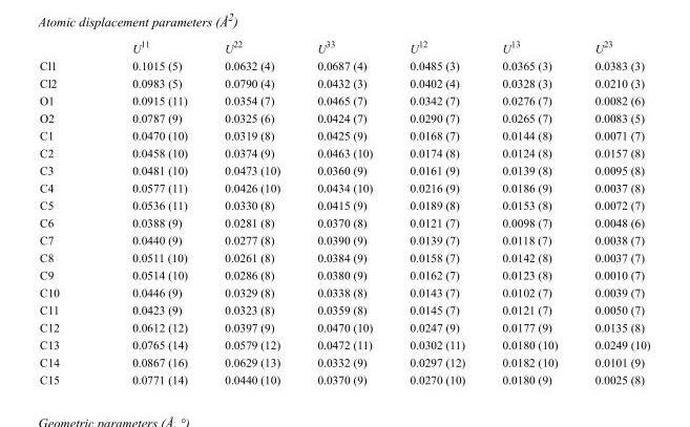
<table><thead><tr><td></td><td>U<sup>11</sup></td><td>U<sup>22</sup></td><td>U<sup>33</sup></td><td>U<sup>12</sup></td><td>U<sup>13</sup></td><td>U<sup>23</sup></td></tr></thead><tbody><tr><td>Cl1</td><td>0.1015 (5)</td><td>0.0632 (4)</td><td>0.0687 (4)</td><td>0.0485 (3)</td><td>0.0365 (3)</td><td>0.0383 (3)</td></tr><tr><td>Cl2</td><td>0.0983 (5)</td><td>0.0790 (4)</td><td>0.0432 (3)</td><td>0.0402 (4)</td><td>0.0328 (3)</td><td>0.0210 (3)</td></tr><tr><td>O1</td><td>0.0915 (11)</td><td>0.0354 (7)</td><td>0.0465 (7)</td><td>0.0342 (7)</td><td>0.0276 (7)</td><td>0.0082 (6)</td></tr><tr><td>O2</td><td>0.0787 (9)</td><td>0.0325 (6)</td><td>0.0424 (7)</td><td>0.0290 (7)</td><td>0.0265 (7)</td><td>0.0083 (5)</td></tr><tr><td>C1</td><td>0.0470 (10)</td><td>0.0319 (8)</td><td>0.0425 (9)</td><td>0.0168 (7)</td><td>0.0144 (8)</td><td>0.0071 (7)</td></tr><tr><td>C2</td><td>0.0458 (10)</td><td>0.0374 (9)</td><td>0.0463 (10)</td><td>0.0174 (8)</td><td>0.0124 (8)</td><td>0.0157 (8)</td></tr><tr><td>C3</td><td>0.0481 (10)</td><td>0.0473 (10)</td><td>0.0360 (9)</td><td>0.0161 (9)</td><td>0.0139 (8)</td><td>0.0095 (8)</td></tr><tr><td>C4</td><td>0.0577 (11)</td><td>0.0426 (10)</td><td>0.0434 (10)</td><td>0.0216 (9)</td><td>0.0186 (9)</td><td>0.0037 (8)</td></tr><tr><td>C5</td><td>0.0536 (11)</td><td>0.0330 (8)</td><td>0.0415 (9)</td><td>0.0189 (8)</td><td>0.0153 (8)</td><td>0.0072 (7)</td></tr><tr><td>C6</td><td>0.0388 (9)</td><td>0.0281 (8)</td><td>0.0370 (8)</td><td>0.0121 (7)</td><td>0.0098 (7)</td><td>0.0048 (6)</td></tr><tr><td>C7</td><td>0.0440 (9)</td><td>0.0277 (8)</td><td>0.0390 (9)</td><td>0.0139 (7)</td><td>0.0118 (7)</td><td>0.0038 (7)</td></tr><tr><td>C8</td><td>0.0511 (10)</td><td>0.0261 (8)</td><td>0.0384 (9)</td><td>0.0158 (7)</td><td>0.0142 (8)</td><td>0.0037 (7)</td></tr><tr><td>C9</td><td>0.0514 (10)</td><td>0.0286 (8)</td><td>0.0380 (9)</td><td>0.0162 (7)</td><td>0.0123 (8)</td><td>0.0010 (7)</td></tr><tr><td>C10</td><td>0.0446 (9)</td><td>0.0329 (8)</td><td>0.0338 (8)</td><td>0.0143 (7)</td><td>0.0102 (7)</td><td>0.0039 (7)</td></tr><tr><td>C11</td><td>0.0423 (9)</td><td>0.0323 (8)</td><td>0.0359 (8)</td><td>0.0145 (7)</td><td>0.0121 (7)</td><td>0.0050 (7)</td></tr><tr><td>C12</td><td>0.0612 (12)</td><td>0.0397 (9)</td><td>0.0470 (10)</td><td>0.0247 (9)</td><td>0.0177 (9)</td><td>0.0135 (8)</td></tr><tr><td>C13</td><td>0.0765 (14)</td><td>0.0579 (12)</td><td>0.0472 (11)</td><td>0.0302 (11)</td><td>0.0180 (10)</td><td>0.0249 (10)</td></tr><tr><td>C14</td><td>0.0867 (16)</td><td>0.0629 (13)</td><td>0.0332 (9)</td><td>0.0297 (12)</td><td>0.0182 (10)</td><td>0.0101 (9)</td></tr><tr><td>C15</td><td>0.0771 (14)</td><td>0.0440 (10)</td><td>0.0370 (9)</td><td>0.0270 (10)</td><td>0.0180 (9)</td><td>0.0025 (8)</td></tr></tbody></table>